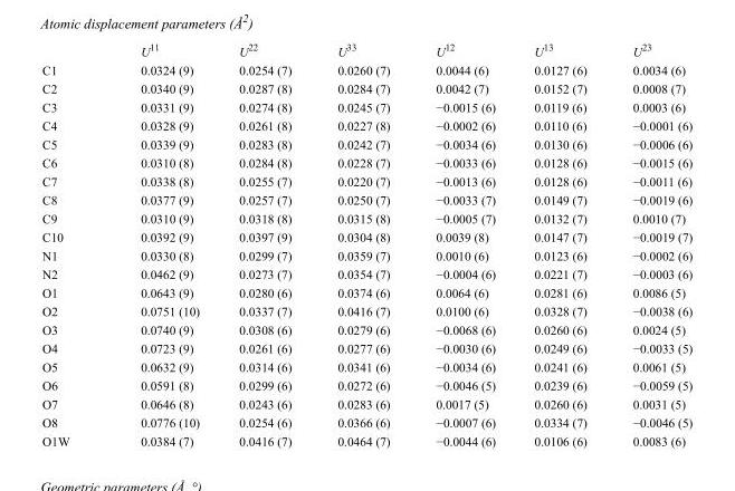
<table><thead><tr><td></td><td>U<sup>11</sup></td><td>U<sup>22</sup></td><td>U<sup>33</sup></td><td>U<sup>12</sup></td><td>U<sup>13</sup></td><td>U<sup>23</sup></td></tr></thead><tbody><tr><td>C1</td><td>0.0324 (9)</td><td>0.0254 (7)</td><td>0.0260 (7)</td><td>0.0044 (6)</td><td>0.0127 (6)</td><td>0.0034 (6)</td></tr><tr><td>C2</td><td>0.0340 (9)</td><td>0.0287 (8)</td><td>0.0284 (7)</td><td>0.0042 (7)</td><td>0.0152 (7)</td><td>0.0008 (7)</td></tr><tr><td>C3</td><td>0.0331 (9)</td><td>0.0274 (8)</td><td>0.0245 (7)</td><td>−0.0015 (6)</td><td>0.0119 (6)</td><td>0.0003 (6)</td></tr><tr><td>C4</td><td>0.0328 (9)</td><td>0.0261 (8)</td><td>0.0227 (8)</td><td>−0.0002 (6)</td><td>0.0110 (6)</td><td>−0.0001 (6)</td></tr><tr><td>C5</td><td>0.0339 (9)</td><td>0.0283 (8)</td><td>0.0242 (7)</td><td>−0.0034 (6)</td><td>0.0130 (6)</td><td>−0.0006 (6)</td></tr><tr><td>C6</td><td>0.0310 (8)</td><td>0.0284 (8)</td><td>0.0228 (7)</td><td>−0.0033 (6)</td><td>0.0128 (6)</td><td>−0.0015 (6)</td></tr><tr><td>C7</td><td>0.0338 (8)</td><td>0.0255 (7)</td><td>0.0220 (7)</td><td>−0.0013 (6)</td><td>0.0128 (6)</td><td>−0.0011 (6)</td></tr><tr><td>C8</td><td>0.0377 (9)</td><td>0.0257 (7)</td><td>0.0250 (7)</td><td>−0.0033 (7)</td><td>0.0149 (7)</td><td>−0.0019 (6)</td></tr><tr><td>C9</td><td>0.0310 (9)</td><td>0.0318 (8)</td><td>0.0315 (8)</td><td>−0.0005 (7)</td><td>0.0132 (7)</td><td>0.0010 (7)</td></tr><tr><td>C10</td><td>0.0392 (9)</td><td>0.0397 (9)</td><td>0.0304 (8)</td><td>0.0039 (8)</td><td>0.0147 (7)</td><td>−0.0019 (7)</td></tr><tr><td>N1</td><td>0.0330 (8)</td><td>0.0299 (7)</td><td>0.0359 (7)</td><td>0.0010 (6)</td><td>0.0123 (6)</td><td>−0.0002 (6)</td></tr><tr><td>N2</td><td>0.0462 (9)</td><td>0.0273 (7)</td><td>0.0354 (7)</td><td>−0.0004 (6)</td><td>0.0221 (7)</td><td>−0.0003 (6)</td></tr><tr><td>O1</td><td>0.0643 (9)</td><td>0.0280 (6)</td><td>0.0374 (6)</td><td>0.0064 (6)</td><td>0.0281 (6)</td><td>0.0086 (5)</td></tr><tr><td>O2</td><td>0.0751 (10)</td><td>0.0337 (7)</td><td>0.0416 (7)</td><td>0.0100 (6)</td><td>0.0328 (7)</td><td>−0.0038 (6)</td></tr><tr><td>O3</td><td>0.0740 (9)</td><td>0.0308 (6)</td><td>0.0279 (6)</td><td>−0.0068 (6)</td><td>0.0260 (6)</td><td>0.0024 (5)</td></tr><tr><td>O4</td><td>0.0723 (9)</td><td>0.0261 (6)</td><td>0.0277 (6)</td><td>−0.0030 (6)</td><td>0.0249 (6)</td><td>−0.0033 (5)</td></tr><tr><td>O5</td><td>0.0632 (9)</td><td>0.0314 (6)</td><td>0.0341 (6)</td><td>−0.0034 (6)</td><td>0.0241 (6)</td><td>0.0061 (5)</td></tr><tr><td>O6</td><td>0.0591 (8)</td><td>0.0299 (6)</td><td>0.0272 (6)</td><td>−0.0046 (5)</td><td>0.0239 (6)</td><td>−0.0059 (5)</td></tr><tr><td>O7</td><td>0.0646 (8)</td><td>0.0243 (6)</td><td>0.0283 (6)</td><td>0.0017 (5)</td><td>0.0260 (6)</td><td>0.0031 (5)</td></tr><tr><td>O8</td><td>0.0776 (10)</td><td>0.0254 (6)</td><td>0.0366 (6)</td><td>−0.0007 (6)</td><td>0.0334 (7)</td><td>−0.0046 (5)</td></tr><tr><td>O1W</td><td>0.0384 (7)</td><td>0.0416 (7)</td><td>0.0464 (7)</td><td>−0.0044 (6)</td><td>0.0106 (6)</td><td>0.0083 (6)</td></tr></tbody></table>